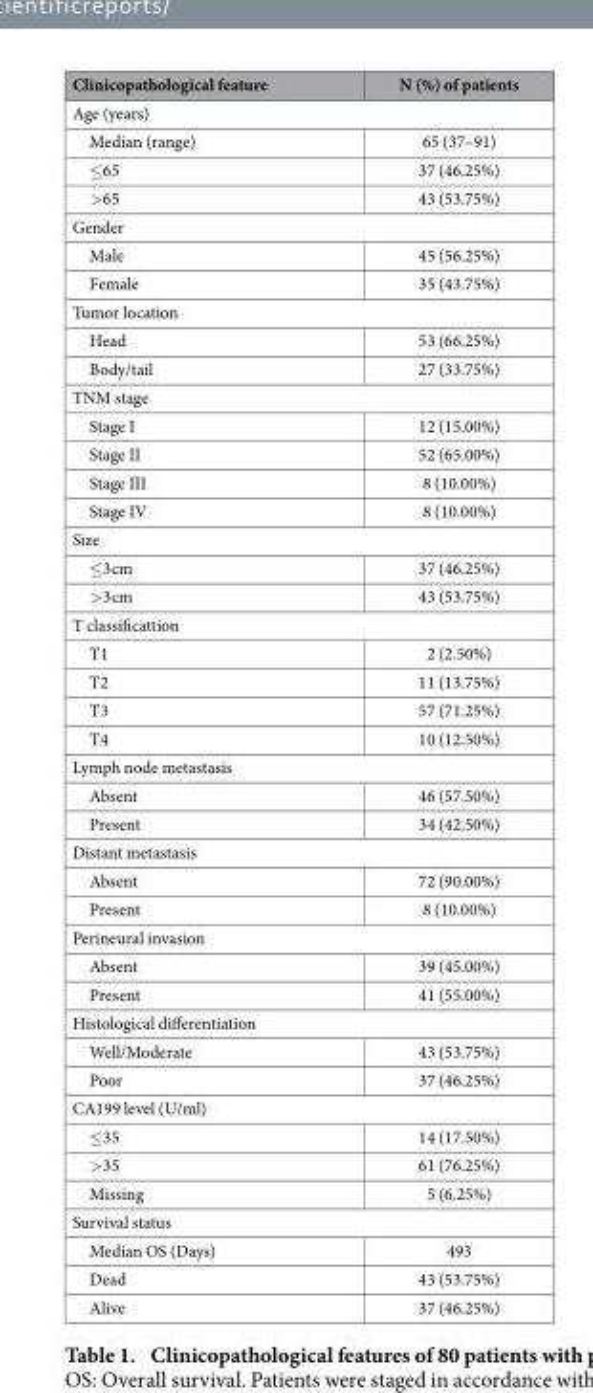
<table><thead><tr><td>Clinicopathological feature</td><td>N (%) of patients</td></tr></thead><tbody><tr><td colspan="2">Age (years)</td></tr><tr><td>Median (range)</td><td>65 (37–91)</td></tr><tr><td>≤ 65</td><td>37 (46.25%)</td></tr><tr><td>&gt; 65</td><td>43 (53.75%)</td></tr><tr><td colspan="2">Gender</td></tr><tr><td>Male</td><td>45 (56.25%)</td></tr><tr><td>Female</td><td>35 (43.75%)</td></tr><tr><td colspan="2">Tumor location</td></tr><tr><td>Head</td><td>53 (66.25%)</td></tr><tr><td>Body/tail</td><td>27 (33.75%)</td></tr><tr><td colspan="2">TNM stage</td></tr><tr><td>Stage I</td><td>12 (15.00%)</td></tr><tr><td>Stage II</td><td>52 (65.00%)</td></tr><tr><td>Stage III</td><td>8 (10.00%)</td></tr><tr><td>Stage IV</td><td>8 (10.00%)</td></tr><tr><td colspan="2">Size</td></tr><tr><td>≤ 3cm</td><td>37 (46.25%)</td></tr><tr><td>&gt; 3cm</td><td>43 (53.75%)</td></tr><tr><td colspan="2">T classificattion</td></tr><tr><td>T1</td><td>2 (2.50%)</td></tr><tr><td>T2</td><td>11 (13.75%)</td></tr><tr><td>T3</td><td>57 (71.25%)</td></tr><tr><td>T4</td><td>10 (12.50%)</td></tr><tr><td colspan="2">Lymph node metastasis</td></tr><tr><td>Absent</td><td>46 (57.50%)</td></tr><tr><td>Present</td><td>34 (42.50%)</td></tr><tr><td colspan="2">Distant metastasis</td></tr><tr><td>Absent</td><td>72 (90.00%)</td></tr><tr><td>Present</td><td>8 (10.00%)</td></tr><tr><td colspan="2">Perineural invasion</td></tr><tr><td>Absent</td><td>39 (45.00%)</td></tr><tr><td>Present</td><td>41 (55.00%)</td></tr><tr><td colspan="2">Histological differentiation</td></tr><tr><td>Well/Moderate</td><td>43 (53.75%)</td></tr><tr><td>Poor</td><td>37 (46.25%)</td></tr><tr><td colspan="2">CA199 level (U/ml)</td></tr><tr><td>≤ 35</td><td>14 (17.50%)</td></tr><tr><td>&gt; 35</td><td>61 (76.25%)</td></tr><tr><td>Missing</td><td>5 (6.25%)</td></tr><tr><td colspan="2">Survival status</td></tr><tr><td>Median OS (Days)</td><td>493</td></tr><tr><td>Dead</td><td>43 (53.75%)</td></tr><tr><td>Alive</td><td>37 (46.25%)</td></tr></tbody></table>